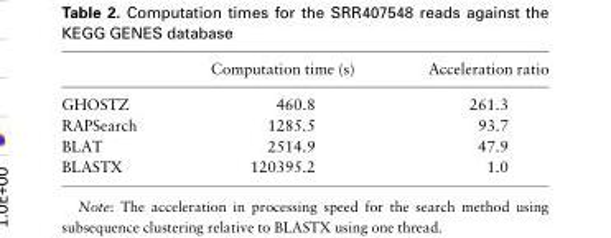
<table><thead><tr><td></td><td>Computation time (s)</td><td>Acceleration ratio</td></tr></thead><tbody><tr><td>GHOSTZ</td><td>460.8</td><td>261.3</td></tr><tr><td>RAPSearch</td><td>1285.5</td><td>93.7</td></tr><tr><td>BLAT</td><td>2514.9</td><td>47.9</td></tr><tr><td>BLASTX</td><td>120395.2</td><td>1.0</td></tr></tbody></table>